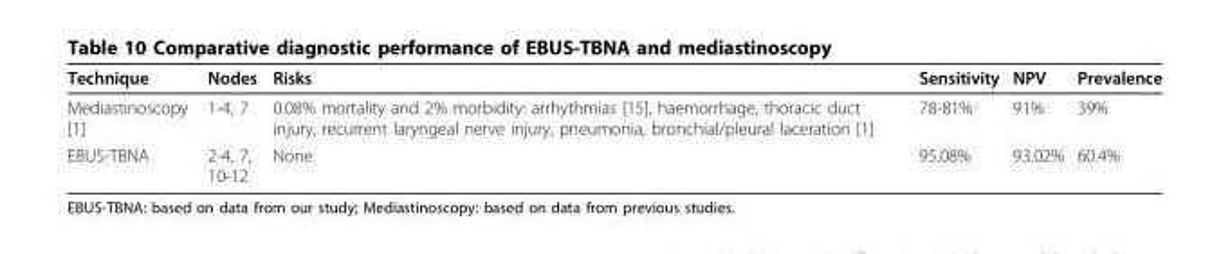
<table><thead><tr><td>Technique</td><td>Nodes</td><td>Risks</td><td>Sensitivity</td><td>NPV</td><td>Prevalence</td></tr></thead><tbody><tr><td>Mediastinoscopy [1]</td><td>1-4, 7</td><td>0.08% mortality and 2% morbidity: arrhythmias [15], haemorrhage, thoracic duct injury, recurrent laryngeal nerve injury, pneumonia, bronchial/pleural laceration [1]</td><td>78-81%</td><td>91%</td><td>39%</td></tr><tr><td>EBUS-TBNA</td><td>2-4, 7, 10-12</td><td>None</td><td>95.08%</td><td>93.02%</td><td>60.4%</td></tr></tbody></table>